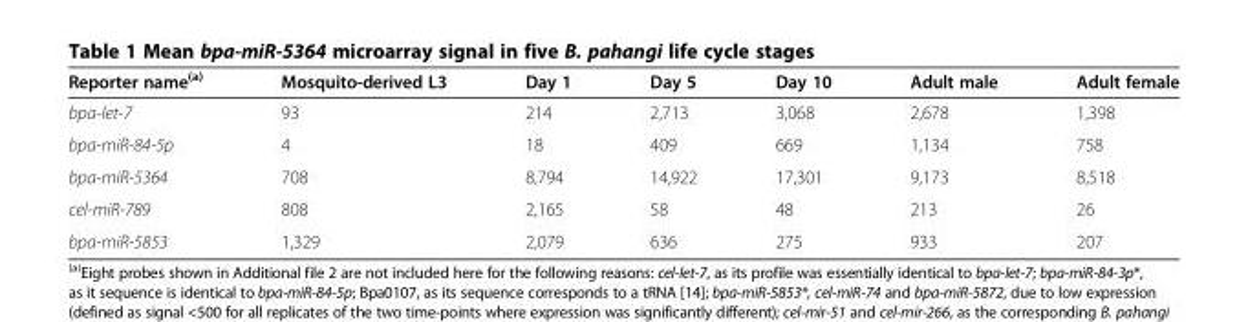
<table><thead><tr><td>Reporter name<sup>(a)</sup></td><td>Mosquito-derived L3</td><td>Day 1</td><td>Day 5</td><td>Day 10</td><td>Adult male</td><td>Adult female</td></tr></thead><tbody><tr><td>bpa-let-7</td><td>93</td><td>214</td><td>2,713</td><td>3,068</td><td>2,678</td><td>1,398</td></tr><tr><td>bpa-miR-84-5p</td><td>4</td><td>18</td><td>409</td><td>669</td><td>1,134</td><td>758</td></tr><tr><td>bpa-miR-5364</td><td>708</td><td>8,794</td><td>14,922</td><td>17,301</td><td>9,173</td><td>8,518</td></tr><tr><td>cel-miR-789</td><td>808</td><td>2,165</td><td>58</td><td>48</td><td>213</td><td>26</td></tr><tr><td>bpa-miR-5853</td><td>1,329</td><td>2,079</td><td>636</td><td>275</td><td>933</td><td>207</td></tr></tbody></table>